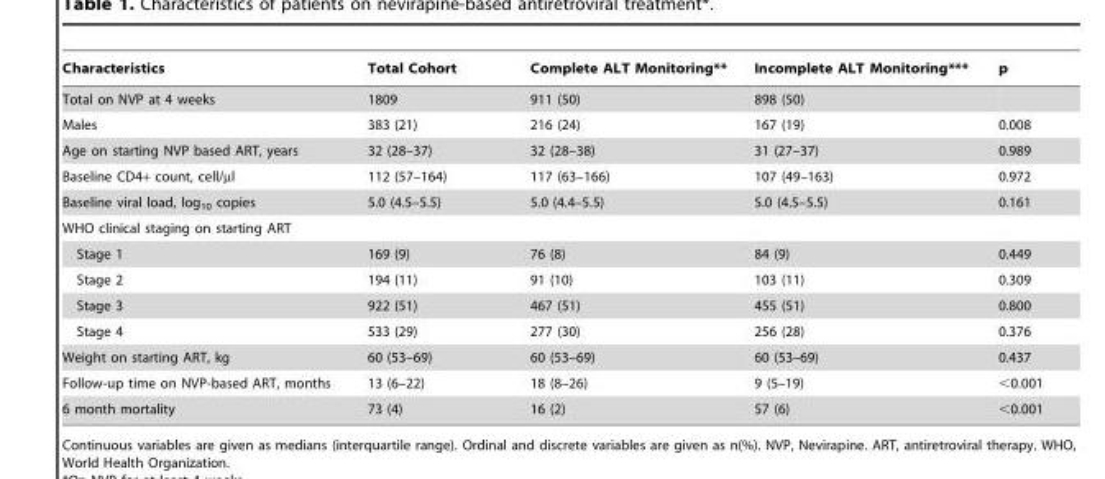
<table><thead><tr><td>Characteristics</td><td>Total Cohort</td><td>Complete ALT Monitoring**</td><td>Incomplete ALT Monitoring***</td><td>p</td></tr></thead><tbody><tr><td>Total on NVP at 4 weeks</td><td>1809</td><td>911 (50)</td><td>898 (50)</td><td></td></tr><tr><td>Males</td><td>383 (21)</td><td>216 (24)</td><td>167 (19)</td><td>0.008</td></tr><tr><td>Age on starting NVP based ART, years</td><td>32 (28–37)</td><td>32 (28–38)</td><td>31 (27–37)</td><td>0.989</td></tr><tr><td>Baseline CD4+ count, cell/µl</td><td>112 (57–164)</td><td>117 (63–166)</td><td>107 (49–163)</td><td>0.972</td></tr><tr><td>Baseline viral load, log<sub>10</sub> copies</td><td>5.0 (4.5–5.5)</td><td>5.0 (4.4–5.5)</td><td>5.0 (4.5–5.5)</td><td>0.161</td></tr><tr><td colspan="5">WHO clinical staging on starting ART</td></tr><tr><td>Stage 1</td><td>169 (9)</td><td>76 (8)</td><td>84 (9)</td><td>0.449</td></tr><tr><td>Stage 2</td><td>194 (11)</td><td>91 (10)</td><td>103 (11)</td><td>0.309</td></tr><tr><td>Stage 3</td><td>922 (51)</td><td>467 (51)</td><td>455 (51)</td><td>0.800</td></tr><tr><td>Stage 4</td><td>533 (29)</td><td>277 (30)</td><td>256 (28)</td><td>0.376</td></tr><tr><td>Weight on starting ART, kg</td><td>60 (53–69)</td><td>60 (53–69)</td><td>60 (53–69)</td><td>0.437</td></tr><tr><td>Follow-up time on NVP-based ART, months</td><td>13 (6–22)</td><td>18 (8–26)</td><td>9 (5–19)</td><td>&lt;0.001</td></tr><tr><td>6 month mortality</td><td>73 (4)</td><td>16 (2)</td><td>57 (6)</td><td>&lt;0.001</td></tr></tbody></table>